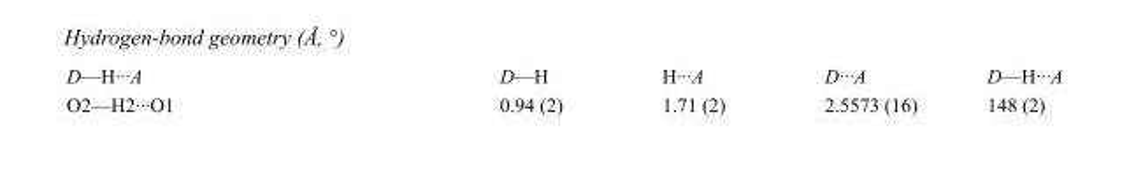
<table><tbody><tr><td>D—H···A</td><td>D—H</td><td>H···A</td><td>D···A</td><td>D—H···A</td></tr><tr><td>O2—H2···O1</td><td>0.94 (2)</td><td>1.71 (2)</td><td>2.5573 (16)</td><td>148 (2)</td></tr></tbody></table>